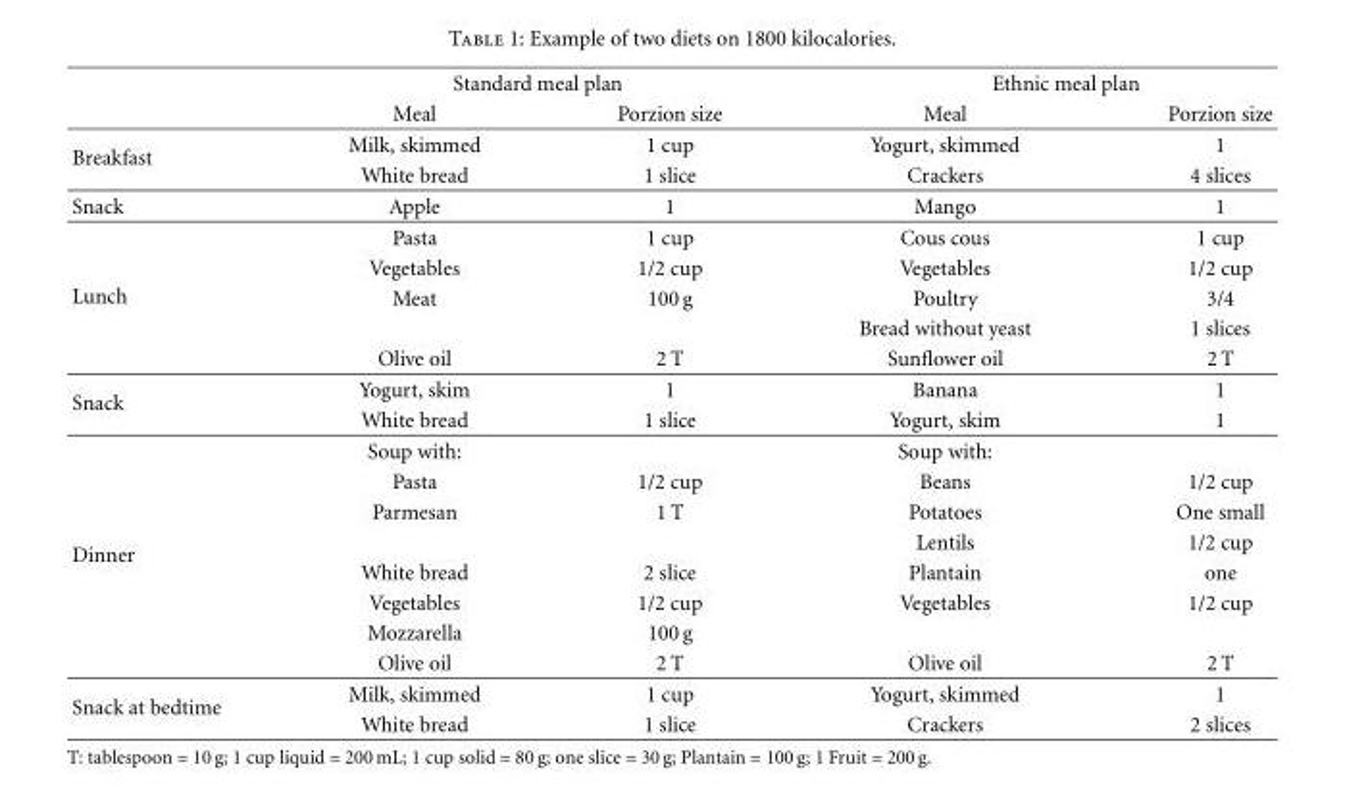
<table><thead><tr><td rowspan="2"></td><td colspan="2">Standard meal plan</td><td colspan="2">Ethnic meal plan</td></tr><tr><td>Meal</td><td>Porzion size</td><td>Meal</td><td>Porzion size</td></tr></thead><tbody><tr><td rowspan="2">Breakfast</td><td>Milk, skimmed</td><td>1 cup</td><td>Yogurt, skimmed</td><td>1</td></tr><tr><td>White bread</td><td>1 slice</td><td>Crackers</td><td>4 slices</td></tr><tr><td>Snack</td><td>Apple</td><td>1</td><td>Mango</td><td>1</td></tr><tr><td rowspan="5">Lunch</td><td>Pasta</td><td>1 cup</td><td>Cous cous</td><td>1 cup</td></tr><tr><td>Vegetables</td><td>1/2 cup</td><td>Vegetables</td><td>1/2 cup</td></tr><tr><td>Meat</td><td>100 g</td><td>Poultry</td><td>3/4</td></tr><tr><td></td><td></td><td>Bread without yeast</td><td>1 slices</td></tr><tr><td>Olive oil</td><td>2 T</td><td>Sunflower oil</td><td>2 T</td></tr><tr><td rowspan="2">Snack</td><td>Yogurt, skim</td><td>1</td><td>Banana</td><td>1</td></tr><tr><td>White bread</td><td>1 slice</td><td>Yogurt, skim</td><td>1</td></tr><tr><td rowspan="8">Dinner</td><td>Soup with:</td><td></td><td>Soup with:</td><td></td></tr><tr><td>Pasta</td><td>1/2 cup</td><td>Beans</td><td>1/2 cup</td></tr><tr><td>Parmesan</td><td>1 T</td><td>Potatoes</td><td>One small</td></tr><tr><td></td><td></td><td>Lentils</td><td>1/2 cup</td></tr><tr><td>White bread</td><td>2 slice</td><td>Plantain</td><td>one</td></tr><tr><td>Vegetables</td><td>1/2 cup</td><td>Vegetables</td><td>1/2 cup</td></tr><tr><td>Mozzarella</td><td>100 g</td><td></td><td></td></tr><tr><td>Olive oil</td><td>2 T</td><td>Olive oil</td><td>2 T</td></tr><tr><td rowspan="2">Snack at bedtime</td><td>Milk, skimmed</td><td>1 cup</td><td>Yogurt, skimmed</td><td>1</td></tr><tr><td>White bread</td><td>1 slice</td><td>Crackers</td><td>2 slices</td></tr></tbody></table>